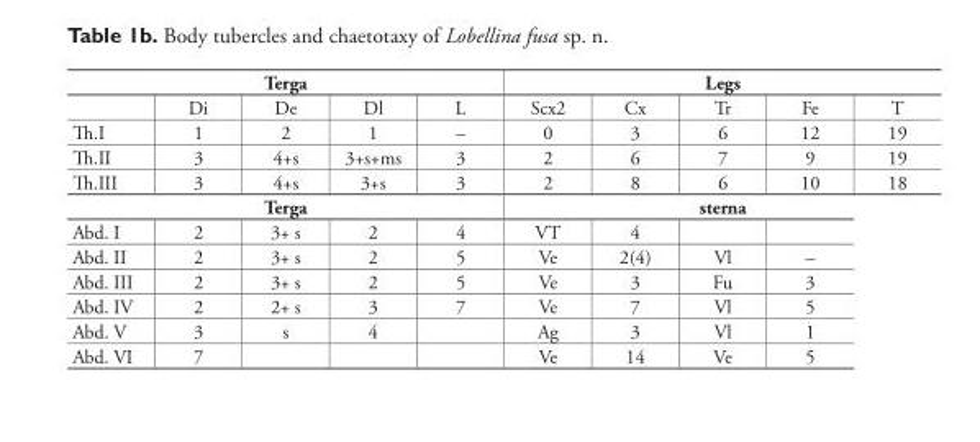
<table><tbody><tr><td colspan="5">Terga</td><td colspan="5">Legs</td></tr><tr><td></td><td>Di</td><td>De</td><td>Dl</td><td>L</td><td>Scx2</td><td>Cx</td><td>Tr</td><td>Fe</td><td>T</td></tr><tr><td>Th.I</td><td>1</td><td>2</td><td>1</td><td>–</td><td>0</td><td>3</td><td>6</td><td>12</td><td>19</td></tr><tr><td>Th.II</td><td>3</td><td>4+s</td><td>3+s+ms</td><td>3</td><td>2</td><td>6</td><td>7</td><td>9</td><td>19</td></tr><tr><td>Th.III</td><td>3</td><td>4+s</td><td>3+s</td><td>3</td><td>2</td><td>8</td><td>6</td><td>10</td><td>18</td></tr><tr><td colspan="5">Terga</td><td colspan="5">sterna</td></tr><tr><td>Abd. I</td><td>2</td><td>3+ s</td><td>2</td><td>4</td><td>VT</td><td>4</td><td></td><td></td><td></td></tr><tr><td>Abd. II</td><td>2</td><td>3+ s</td><td>2</td><td>5</td><td>Ve</td><td>2(4)</td><td>Vl</td><td>–</td><td></td></tr><tr><td>Abd. III</td><td>2</td><td>3+ s</td><td>2</td><td>5</td><td>Ve</td><td>3</td><td>Fu</td><td>3</td><td></td></tr><tr><td>Abd. IV</td><td>2</td><td>2+ s</td><td>3</td><td>7</td><td>Ve</td><td>7</td><td>Vl</td><td>5</td><td></td></tr><tr><td>Abd. V</td><td>3</td><td>s</td><td>4</td><td></td><td>Ag</td><td>3</td><td>Vl</td><td>1</td><td></td></tr><tr><td>Abd. VI</td><td>7</td><td></td><td></td><td></td><td>Ve</td><td>14</td><td>Ve</td><td>5</td><td></td></tr></tbody></table>